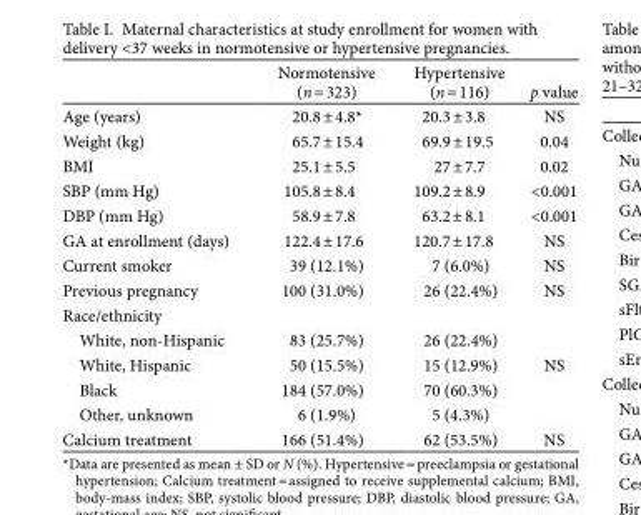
<table><thead><tr><td></td><td>Normotensive (n = 323)</td><td>Hypertensive (n = 116)</td><td>p value</td></tr></thead><tbody><tr><td>Age (years)</td><td>20.8 ± 4.8*</td><td>20.3 ± 3.8</td><td>NS</td></tr><tr><td>Weight (kg)</td><td>65.7 ± 15.4</td><td>69.9 ± 19.5</td><td>0.04</td></tr><tr><td>BMI</td><td>25.1 ± 5.5</td><td>27 ± 7.7</td><td>0.02</td></tr><tr><td>SBP (mm Hg)</td><td>105.8 ± 8.4</td><td>109.2 ± 8.9</td><td>&lt;0.001</td></tr><tr><td>DBP (mm Hg)</td><td>58.9 ± 7.8</td><td>63.2 ± 8.1</td><td>&lt;0.001</td></tr><tr><td>GA at enrollment (days)</td><td>122.4 ± 17.6</td><td>120.7 ± 17.8</td><td>NS</td></tr><tr><td>Current smoker</td><td>39 (12.1%)</td><td>7 (6.0%)</td><td>NS</td></tr><tr><td>Previous pregnancy</td><td>100 (31.0%)</td><td>26 (22.4%)</td><td>NS</td></tr><tr><td colspan="4">Race/ethnicity</td></tr><tr><td>White, non-Hispanic</td><td>83 (25.7%)</td><td>26 (22.4%)</td><td></td></tr><tr><td>White, Hispanic</td><td>50 (15.5%)</td><td>15 (12.9%)</td><td>NS</td></tr><tr><td>Black</td><td>184 (57.0%)</td><td>70 (60.3%)</td><td></td></tr><tr><td>Other, unknown</td><td>6 (1.9%)</td><td>5 (4.3%)</td><td></td></tr><tr><td>Calcium treatment</td><td>166 (51.4%)</td><td>62 (53.5%)</td><td>NS</td></tr></tbody></table>